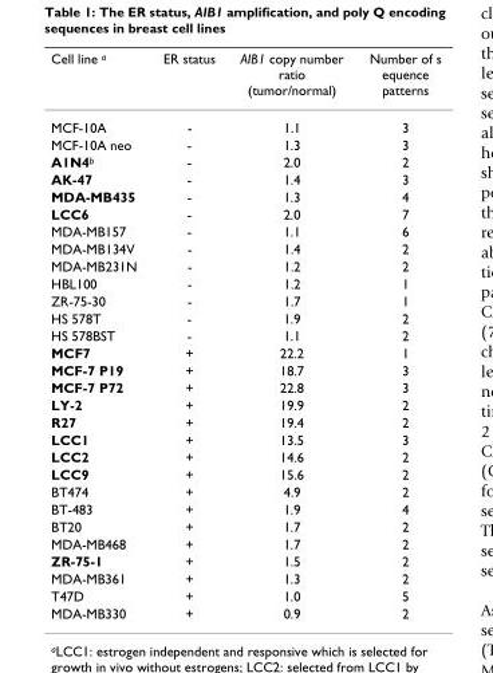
<table><thead><tr><td>Cell line a</td><td>ER status</td><td>AIB1 copy number ratio (tumor/normal)</td><td>Number of s equence patterns</td></tr></thead><tbody><tr><td>MCF-10A</td><td>-</td><td>1.1</td><td>3</td></tr><tr><td>MCF-10A neo</td><td>-</td><td>1.3</td><td>3</td></tr><tr><td>A1N4b</td><td>-</td><td>2.0</td><td>2</td></tr><tr><td>AK-47</td><td>-</td><td>1.4</td><td>3</td></tr><tr><td>MDA-MB435</td><td>-</td><td>1.3</td><td>4</td></tr><tr><td>LCC6</td><td>-</td><td>2.0</td><td>7</td></tr><tr><td>MDA-MB157</td><td>-</td><td>1.1</td><td>6</td></tr><tr><td>MDA-MB134V</td><td>-</td><td>1.4</td><td>2</td></tr><tr><td>MDA-MB231N</td><td>-</td><td>1.2</td><td>2</td></tr><tr><td>HBL100</td><td>-</td><td>1.2</td><td>1</td></tr><tr><td>ZR-75-30</td><td>-</td><td>1.7</td><td>1</td></tr><tr><td>HS 578T</td><td>-</td><td>1.9</td><td>2</td></tr><tr><td>HS 578BST</td><td>-</td><td>1.1</td><td>2</td></tr><tr><td>MCF7</td><td>+</td><td>22.2</td><td>1</td></tr><tr><td>MCF-7 P19</td><td>+</td><td>18.7</td><td>3</td></tr><tr><td>MCF-7 P72</td><td>+</td><td>22.8</td><td>3</td></tr><tr><td>LY-2</td><td>+</td><td>19.9</td><td>2</td></tr><tr><td>R27</td><td>+</td><td>19.4</td><td>2</td></tr><tr><td>LCC1</td><td>+</td><td>13.5</td><td>3</td></tr><tr><td>LCC2</td><td>+</td><td>14.6</td><td>2</td></tr><tr><td>LCC9</td><td>+</td><td>15.6</td><td>2</td></tr><tr><td>BT474</td><td>+</td><td>4.9</td><td>2</td></tr><tr><td>BT-483</td><td>+</td><td>1.9</td><td>4</td></tr><tr><td>BT20</td><td>+</td><td>1.7</td><td>2</td></tr><tr><td>MDA-MB468</td><td>+</td><td>1.7</td><td>2</td></tr><tr><td>ZR-75-1</td><td>+</td><td>1.5</td><td>2</td></tr><tr><td>MDA-MB361</td><td>+</td><td>1.3</td><td>2</td></tr><tr><td>T47D</td><td>+</td><td>1.0</td><td>5</td></tr><tr><td>MDA-MB330</td><td>+</td><td>0.9</td><td>2</td></tr></tbody></table>